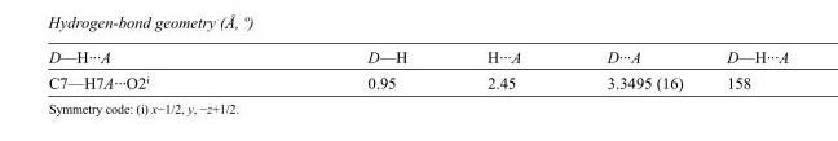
<table><tbody><tr><td>D—H···A</td><td>D—H</td><td>H···A</td><td>D···A</td><td>D—H···A</td></tr><tr><td>C7—H7A···O2<sup>i</sup></td><td>0.95</td><td>2.45</td><td>3.3495 (16)</td><td>158</td></tr></tbody></table>